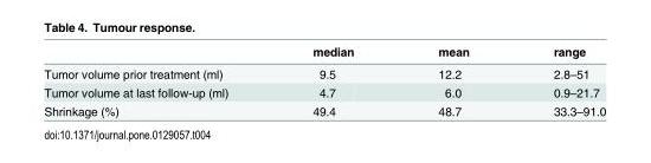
<table><thead><tr><td></td><td>median</td><td>mean</td><td>range</td></tr></thead><tbody><tr><td>Tumor volume prior treatment (ml)</td><td>9.5</td><td>12.2</td><td>2.8–51</td></tr><tr><td>Tumor volume at last follow-up (ml)</td><td>4.7</td><td>6.0</td><td>0.9–21.7</td></tr><tr><td>Shrinkage (%)</td><td>49.4</td><td>48.7</td><td>33.3–91.0</td></tr></tbody></table>